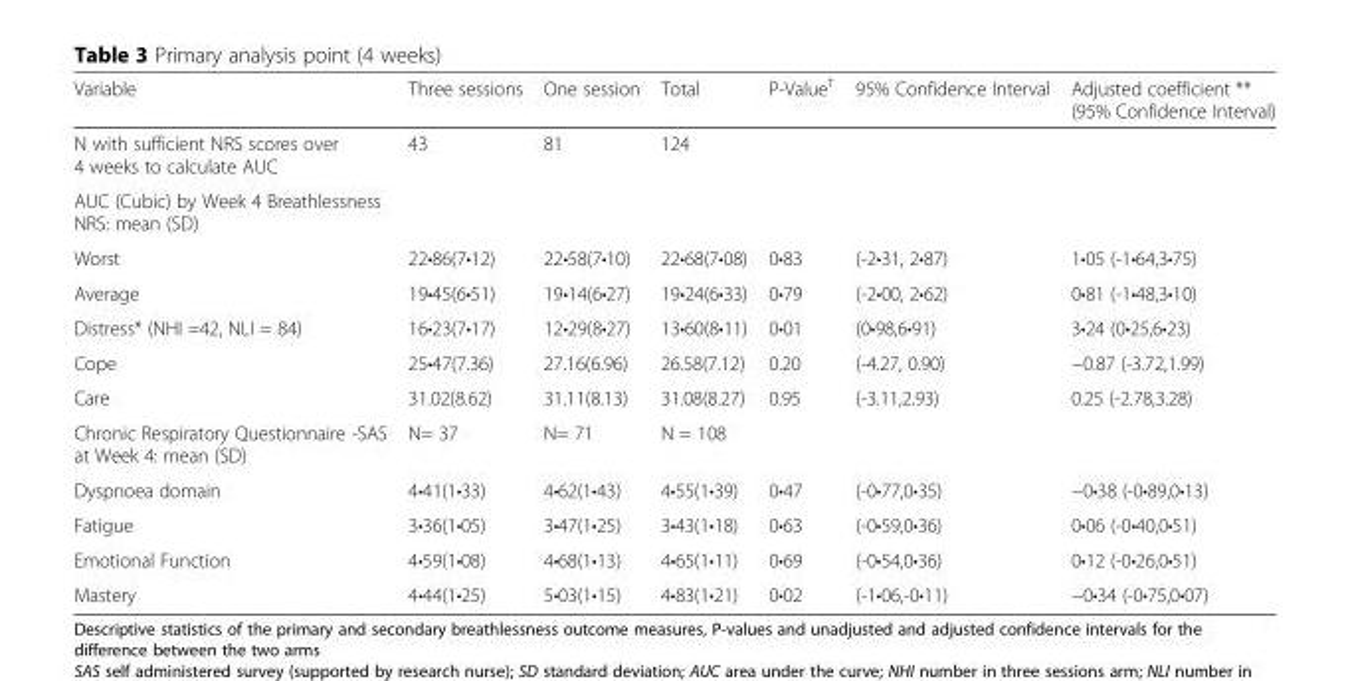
<table><thead><tr><td>Variable</td><td>Three sessions</td><td>One session</td><td>Total</td><td>P-Value<sup>†</sup></td><td>95% Confidence Interval</td><td>Adjusted coefficient ** (95% Confidence Interval)</td></tr></thead><tbody><tr><td>N with sufficient NRS scores over 4 weeks to calculate AUC</td><td>43</td><td>81</td><td>124</td><td></td><td></td><td></td></tr><tr><td colspan="7">AUC (Cubic) by Week 4 Breathlessness NRS: mean (SD)</td></tr><tr><td>Worst</td><td>22•86(7•12)</td><td>22•58(7•10)</td><td>22•68(7•08)</td><td>0•83</td><td>(-2•31, 2•87)</td><td>1•05 (-1•64,3•75)</td></tr><tr><td>Average</td><td>19•45(6•51)</td><td>19•14(6•27)</td><td>19•24(6•33)</td><td>0•79</td><td>(-2•00, 2•62)</td><td>0•81 (-1•48,3•10)</td></tr><tr><td>Distress* (NHI =42, NLI = 84)</td><td>16•23(7•17)</td><td>12•29(8•27)</td><td>13•60(8•11)</td><td>0•01</td><td>(0•98,6•91)</td><td>3•24 (0•25,6•23)</td></tr><tr><td>Cope</td><td>25•47(7.36)</td><td>27.16(6.96)</td><td>26.58(7.12)</td><td>0.20</td><td>(-4.27, 0.90)</td><td>−0.87 (-3.72,1.99)</td></tr><tr><td>Care</td><td>31.02(8.62)</td><td>31.11(8.13)</td><td>31.08(8.27)</td><td>0.95</td><td>(-3.11,2.93)</td><td>0.25 (-2.78,3.28)</td></tr><tr><td>Chronic Respiratory Questionnaire -SAS at Week 4: mean (SD)</td><td>N= 37</td><td>N= 71</td><td>N = 108</td><td></td><td></td><td></td></tr><tr><td>Dyspnoea domain</td><td>4•41(1•33)</td><td>4•62(1•43)</td><td>4•55(1•39)</td><td>0•47</td><td>(-0•77,0•35)</td><td>−0•38 (-0•89,0•13)</td></tr><tr><td>Fatigue</td><td>3•36(1•05)</td><td>3•47(1•25)</td><td>3•43(1•18)</td><td>0•63</td><td>(-0•59,0•36)</td><td>0•06 (-0•40,0•51)</td></tr><tr><td>Emotional Function</td><td>4•59(1•08)</td><td>4•68(1•13)</td><td>4•65(1•11)</td><td>0•69</td><td>(-0•54,0•36)</td><td>0•12 (-0•26,0•51)</td></tr><tr><td>Mastery</td><td>4•44(1•25)</td><td>5•03(1•15)</td><td>4•83(1•21)</td><td>0•02</td><td>(-1•06,-0•11)</td><td>−0•34 (-0•75,0•07)</td></tr></tbody></table>